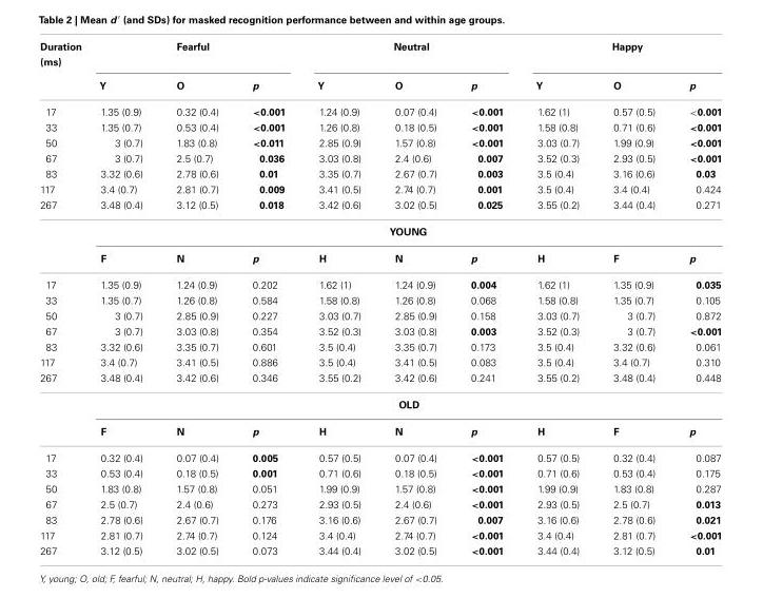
<table><thead><tr><td rowspan="2">Duration (ms)</td><td colspan="3">Fearful</td><td colspan="3">Neutral</td><td colspan="3">Happy</td></tr><tr><td>Y</td><td>O</td><td>p</td><td>Y</td><td>O</td><td>p</td><td>Y</td><td>O</td><td>p</td></tr></thead><tbody><tr><td>17</td><td>1.35 (0.9)</td><td>0.32 (0.4)</td><td>&lt;0.001</td><td>1.24 (0.9)</td><td>0.07 (0.4)</td><td>&lt;0.001</td><td>1.62 (1)</td><td>0.57 (0.5)</td><td>&lt;0.001</td></tr><tr><td>33</td><td>1.35 (0.7)</td><td>0.53 (0.4)</td><td>&lt;0.001</td><td>1.26 (0.8)</td><td>0.18 (0.5)</td><td>&lt;0.001</td><td>1.58 (0.8)</td><td>0.71 (0.6)</td><td>&lt;0.001</td></tr><tr><td>50</td><td>3 (0.7)</td><td>1.83 (0.8)</td><td>&lt;0.011</td><td>2.85 (0.9)</td><td>1.57 (0.8)</td><td>&lt;0.001</td><td>3.03 (0.7)</td><td>1.99 (0.9)</td><td>&lt;0.001</td></tr><tr><td>67</td><td>3 (0.7)</td><td>2.5 (0.7)</td><td>0.036</td><td>3.03 (0.8)</td><td>2.4 (0.6)</td><td>0.007</td><td>3.52 (0.3)</td><td>2.93 (0.5)</td><td>&lt;0.001</td></tr><tr><td>83</td><td>3.32 (0.6)</td><td>2.78 (0.6)</td><td>0.01</td><td>3.35 (0.7)</td><td>2.67 (0.7)</td><td>0.003</td><td>3.5 (0.4)</td><td>3.16 (0.6)</td><td>0.03</td></tr><tr><td>117</td><td>3.4 (0.7)</td><td>2.81 (0.7)</td><td>0.009</td><td>3.41 (0.5)</td><td>2.74 (0.7)</td><td>0.001</td><td>3.5 (0.4)</td><td>3.4 (0.4)</td><td>0.424</td></tr><tr><td>267</td><td>3.48 (0.4)</td><td>3.12 (0.5)</td><td>0.018</td><td>3.42 (0.6)</td><td>3.02 (0.5)</td><td>0.025</td><td>3.55 (0.2)</td><td>3.44 (0.4)</td><td>0.271</td></tr><tr><td colspan="10">YOUNG</td></tr><tr><td></td><td>F</td><td>N</td><td>p</td><td>H</td><td>N</td><td>p</td><td>H</td><td>F</td><td>p</td></tr><tr><td>17</td><td>1.35 (0.9)</td><td>1.24 (0.9)</td><td>0.202</td><td>1.62 (1)</td><td>1.24 (0.9)</td><td>0.004</td><td>1.62 (1)</td><td>1.35 (0.9)</td><td>0.035</td></tr><tr><td>33</td><td>1.35 (0.7)</td><td>1.26 (0.8)</td><td>0.584</td><td>1.58 (0.8)</td><td>1.26 (0.8)</td><td>0.068</td><td>1.58 (0.8)</td><td>1.35 (0.7)</td><td>0.105</td></tr><tr><td>50</td><td>3 (0.7)</td><td>2.85 (0.9)</td><td>0.227</td><td>3.03 (0.7)</td><td>2.85 (0.9)</td><td>0.158</td><td>3.03 (0.7)</td><td>3 (0.7)</td><td>0.872</td></tr><tr><td>67</td><td>3 (0.7)</td><td>3.03 (0.8)</td><td>0.354</td><td>3.52 (0.3)</td><td>3.03 (0.8)</td><td>0.003</td><td>3.52 (0.3)</td><td>3 (0.7)</td><td>&lt;0.001</td></tr><tr><td>83</td><td>3.32 (0.6)</td><td>3.35 (0.7)</td><td>0.601</td><td>3.5 (0.4)</td><td>3.35 (0.7)</td><td>0.173</td><td>3.5 (0.4)</td><td>3.32 (0.6)</td><td>0.061</td></tr><tr><td>117</td><td>3.4 (0.7)</td><td>3.41 (0.5)</td><td>0.886</td><td>3.5 (0.4)</td><td>3.41 (0.5)</td><td>0.083</td><td>3.5 (0.4)</td><td>3.4 (0.7)</td><td>0.310</td></tr><tr><td>267</td><td>3.48 (0.4)</td><td>3.42 (0.6)</td><td>0.346</td><td>3.55 (0.2)</td><td>3.42 (0.6)</td><td>0.241</td><td>3.55 (0.2)</td><td>3.48 (0.4)</td><td>0.448</td></tr><tr><td colspan="10">OLD</td></tr><tr><td></td><td>F</td><td>N</td><td>p</td><td>H</td><td>N</td><td>p</td><td>H</td><td>F</td><td>p</td></tr><tr><td>17</td><td>0.32 (0.4)</td><td>0.07 (0.4)</td><td>0.005</td><td>0.57 (0.5)</td><td>0.07 (0.4)</td><td>&lt;0.001</td><td>0.57 (0.5)</td><td>0.32 (0.4)</td><td>0.087</td></tr><tr><td>33</td><td>0.53 (0.4)</td><td>0.18 (0.5)</td><td>0.001</td><td>0.71 (0.6)</td><td>0.18 (0.5)</td><td>&lt;0.001</td><td>0.71 (0.6)</td><td>0.53 (0.4)</td><td>0.175</td></tr><tr><td>50</td><td>1.83 (0.8)</td><td>1.57 (0.8)</td><td>0.051</td><td>1.99 (0.9)</td><td>1.57 (0.8)</td><td>&lt;0.001</td><td>1.99 (0.9)</td><td>1.83 (0.8)</td><td>0.287</td></tr><tr><td>67</td><td>2.5 (0.7)</td><td>2.4 (0.6)</td><td>0.273</td><td>2.93 (0.5)</td><td>2.4 (0.6)</td><td>&lt;0.001</td><td>2.93 (0.5)</td><td>2.5 (0.7)</td><td>0.013</td></tr><tr><td>83</td><td>2.78 (0.6)</td><td>2.67 (0.7)</td><td>0.176</td><td>3.16 (0.6)</td><td>2.67 (0.7)</td><td>0.007</td><td>3.16 (0.6)</td><td>2.78 (0.6)</td><td>0.021</td></tr><tr><td>117</td><td>2.81 (0.7)</td><td>2.74 (0.7)</td><td>0.124</td><td>3.4 (0.4)</td><td>2.74 (0.7)</td><td>&lt;0.001</td><td>3.4 (0.4)</td><td>2.81 (0.7)</td><td>&lt;0.001</td></tr><tr><td>267</td><td>3.12 (0.5)</td><td>3.02 (0.5)</td><td>0.073</td><td>3.44 (0.4)</td><td>3.02 (0.5)</td><td>&lt;0.001</td><td>3.44 (0.4)</td><td>3.12 (0.5)</td><td>0.01</td></tr></tbody></table>